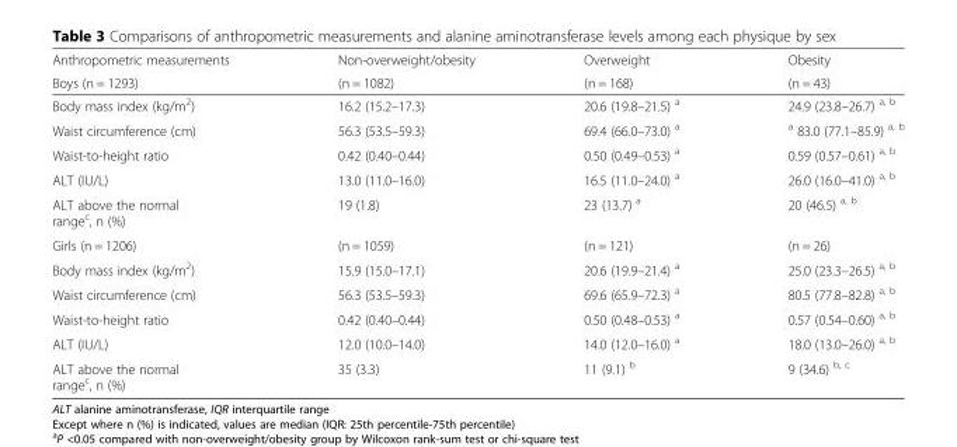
<table><thead><tr><td rowspan="2">Anthropometric measurements Boys (n = 1293)</td><td rowspan="2">Non-overweight/obesity (n = 1082)</td><td rowspan="2">Overweight (n = 168)</td><td rowspan="2">Obesity (n = 43)</td></tr><tr></tr></thead><tbody><tr><td>Body mass index (kg/m<sup>2</sup>)</td><td>16.2 (15.2–17.3)</td><td>20.6 (19.8–21.5) <sup>a</sup></td><td>24.9 (23.8–26.7) <sup>a, b</sup></td></tr><tr><td>Waist circumference (cm)</td><td>56.3 (53.5–59.3)</td><td>69.4 (66.0–73.0) <sup>a</sup></td><td><sup>a</sup> 83.0 (77.1–85.9) <sup>a, b</sup></td></tr><tr><td>Waist-to-height ratio</td><td>0.42 (0.40–0.44)</td><td>0.50 (0.49–0.53) <sup>a</sup></td><td>0.59 (0.57–0.61) <sup>a, b</sup></td></tr><tr><td>ALT (IU/L)</td><td>13.0 (11.0–16.0)</td><td>16.5 (11.0–24.0) <sup>a</sup></td><td>26.0 (16.0–41.0) <sup>a, b</sup></td></tr><tr><td>ALT above the normal range<sup>c</sup>, n (%)</td><td>19 (1.8)</td><td>23 (13.7) <sup>a</sup></td><td>20 (46.5) <sup>a, b</sup></td></tr><tr><td>Girls (n = 1206)</td><td>(n = 1059)</td><td>(n = 121)</td><td>(n = 26)</td></tr><tr><td>Body mass index (kg/m<sup>2</sup>)</td><td>15.9 (15.0–17.1)</td><td>20.6 (19.9–21.4) <sup>a</sup></td><td>25.0 (23.3–26.5) <sup>a, b</sup></td></tr><tr><td>Waist circumference (cm)</td><td>56.3 (53.5–59.3)</td><td>69.6 (65.9–72.3) <sup>a</sup></td><td>80.5 (77.8–82.8) <sup>a, b</sup></td></tr><tr><td>Waist-to-height ratio</td><td>0.42 (0.40–0.44)</td><td>0.50 (0.48–0.53) <sup>a</sup></td><td>0.57 (0.54–0.60) <sup>a, b</sup></td></tr><tr><td>ALT (IU/L)</td><td>12.0 (10.0–14.0)</td><td>14.0 (12.0–16.0) <sup>a</sup></td><td>18.0 (13.0–26.0) <sup>a, b</sup></td></tr><tr><td>ALT above the normal range<sup>c</sup>, n (%)</td><td>35 (3.3)</td><td>11 (9.1) <sup>b</sup></td><td>9 (34.6) <sup>b, c</sup></td></tr></tbody></table>